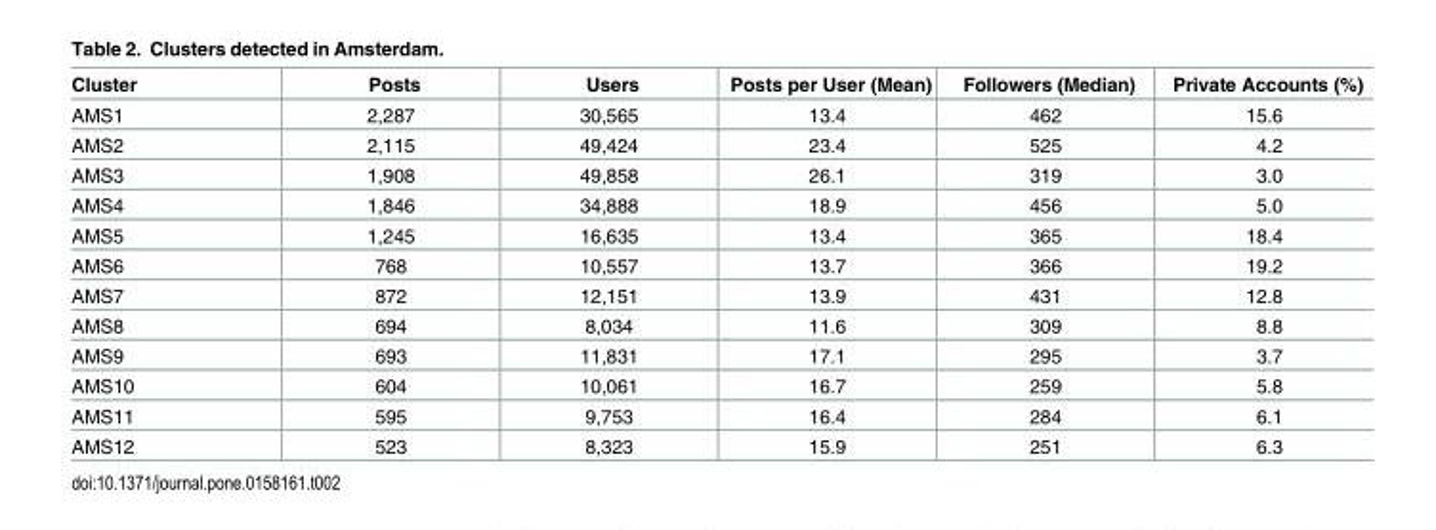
<table><thead><tr><td>Cluster</td><td>Posts</td><td>Users</td><td>Posts per User (Mean)</td><td>Followers (Median)</td><td>Private Accounts (%)</td></tr></thead><tbody><tr><td>AMS1</td><td>2,287</td><td>30,565</td><td>13.4</td><td>462</td><td>15.6</td></tr><tr><td>AMS2</td><td>2,115</td><td>49,424</td><td>23.4</td><td>525</td><td>4.2</td></tr><tr><td>AMS3</td><td>1,908</td><td>49,858</td><td>26.1</td><td>319</td><td>3.0</td></tr><tr><td>AMS4</td><td>1,846</td><td>34,888</td><td>18.9</td><td>456</td><td>5.0</td></tr><tr><td>AMS5</td><td>1,245</td><td>16,635</td><td>13.4</td><td>365</td><td>18.4</td></tr><tr><td>AMS6</td><td>768</td><td>10,557</td><td>13.7</td><td>366</td><td>19.2</td></tr><tr><td>AMS7</td><td>872</td><td>12,151</td><td>13.9</td><td>431</td><td>12.8</td></tr><tr><td>AMS8</td><td>694</td><td>8,034</td><td>11.6</td><td>309</td><td>8.8</td></tr><tr><td>AMS9</td><td>693</td><td>11,831</td><td>17.1</td><td>295</td><td>3.7</td></tr><tr><td>AMS10</td><td>604</td><td>10,061</td><td>16.7</td><td>259</td><td>5.8</td></tr><tr><td>AMS11</td><td>595</td><td>9,753</td><td>16.4</td><td>284</td><td>6.1</td></tr><tr><td>AMS12</td><td>523</td><td>8,323</td><td>15.9</td><td>251</td><td>6.3</td></tr></tbody></table>